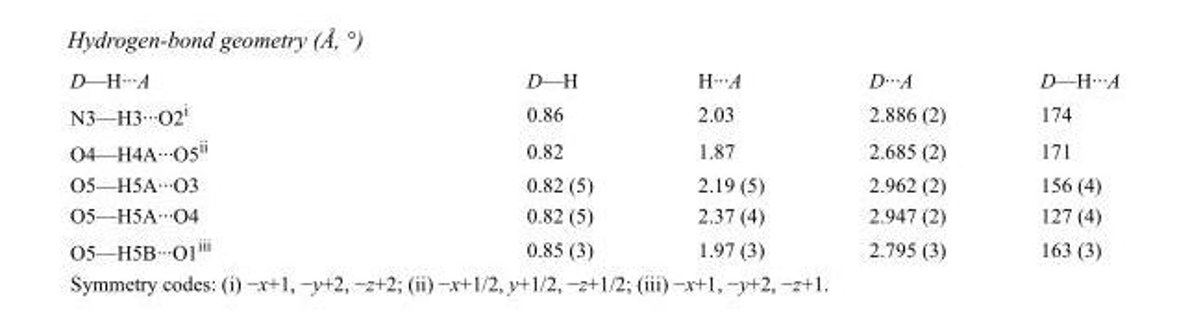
<table><tbody><tr><td>D—H···A</td><td>D—H</td><td>H···A</td><td>D···A</td><td>D—H···A</td></tr><tr><td>N3—H3···O2<sup>i</sup></td><td>0.86</td><td>2.03</td><td>2.886 (2)</td><td>174</td></tr><tr><td>O4—H4A···O5<sup>ii</sup></td><td>0.82</td><td>1.87</td><td>2.685 (2)</td><td>171</td></tr><tr><td>O5—H5A···O3</td><td>0.82 (5)</td><td>2.19 (5)</td><td>2.962 (2)</td><td>156 (4)</td></tr><tr><td>O5—H5A···O4</td><td>0.82 (5)</td><td>2.37 (4)</td><td>2.947 (2)</td><td>127 (4)</td></tr><tr><td>O5—H5B···O1<sup>iii</sup></td><td>0.85 (3)</td><td>1.97 (3)</td><td>2.795 (3)</td><td>163 (3)</td></tr></tbody></table>